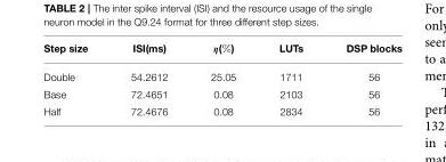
<table><thead><tr><td>Step size</td><td>ISI(ms)</td><td>η(%)</td><td>LUTs</td><td>DSP blocks</td></tr></thead><tbody><tr><td>Double</td><td>54.2612</td><td>25.05</td><td>1711</td><td>56</td></tr><tr><td>Base</td><td>72.4651</td><td>0.08</td><td>2103</td><td>56</td></tr><tr><td>Half</td><td>72.4676</td><td>0.08</td><td>2834</td><td>56</td></tr></tbody></table>